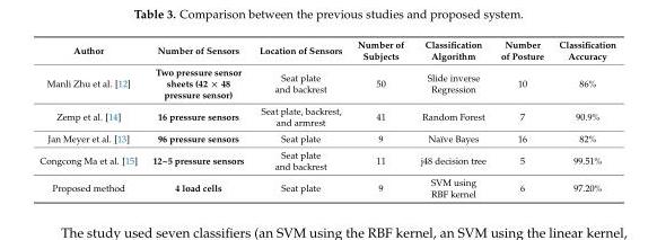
<table><thead><tr><td>Author</td><td>Number of Sensors</td><td>Location of Sensors</td><td>Number of Subjects</td><td>Classification Algorithm</td><td>Number of Posture</td><td>Classification Accuracy</td></tr></thead><tbody><tr><td>Manli Zhu et al. [12]</td><td>Two pressure sensor sheets (42 × 48 pressure sensor)</td><td>Seat plate and backrest</td><td>50</td><td>Slide inverse Regression</td><td>10</td><td>86%</td></tr><tr><td>Zemp et al. [14]</td><td>16 pressure sensors</td><td>Seat plate, backrest, and armrest</td><td>41</td><td>Random Forest</td><td>7</td><td>90.9%</td></tr><tr><td>Jan Meyer et al. [13]</td><td>96 pressure sensors</td><td>Seat plate</td><td>9</td><td>Naïve Bayes</td><td>16</td><td>82%</td></tr><tr><td>Congcong Ma et al. [15]</td><td>12~5 pressure sensors</td><td>Seat plate and backrest</td><td>11</td><td>j48 decision tree</td><td>5</td><td>99.51%</td></tr><tr><td>Proposed method</td><td>4 load cells</td><td>Seat plate</td><td>9</td><td>SVM using RBF kernel</td><td>6</td><td>97.20%</td></tr></tbody></table>